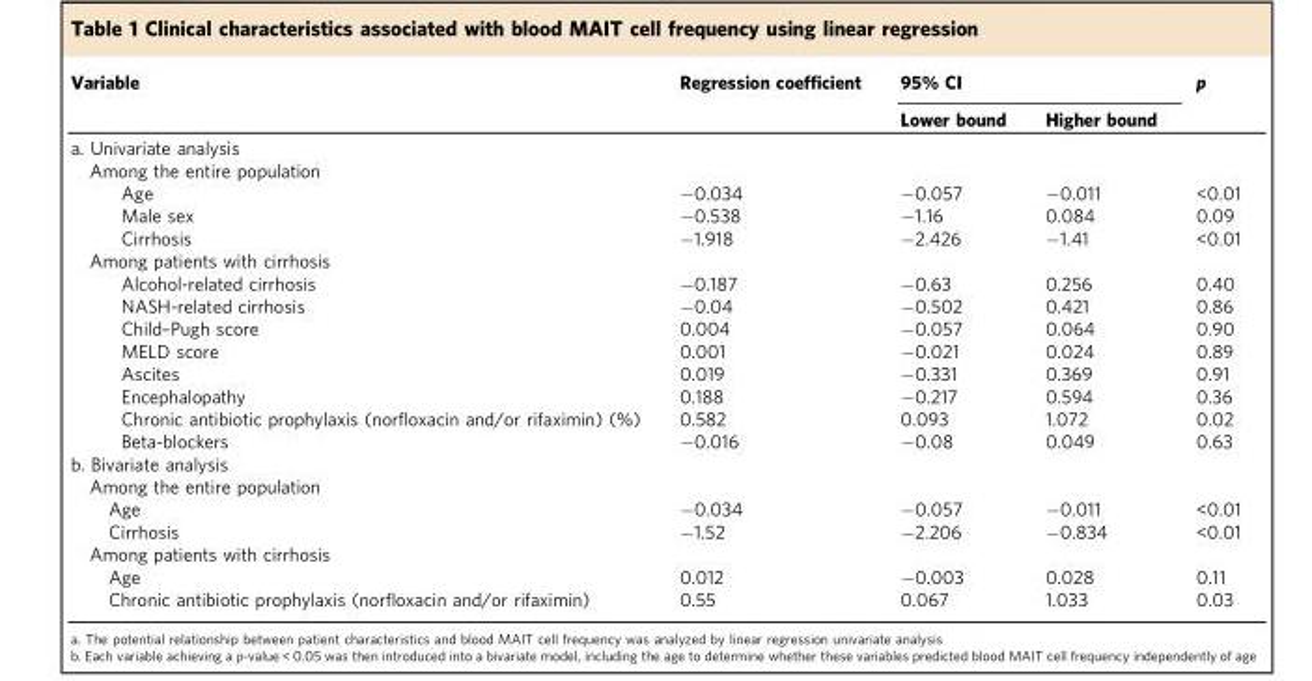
<table><thead><tr><td rowspan="2">Variable</td><td rowspan="2">Regression coefficient</td><td colspan="2">95% CI</td><td rowspan="2">p</td></tr><tr><td>Lower bound</td><td>Higher bound</td></tr></thead><tbody><tr><td colspan="5">a. Univariate analysis</td></tr><tr><td colspan="5">Among the entire population</td></tr><tr><td>Age</td><td>−0.034</td><td>−0.057</td><td>−0.011</td><td>&lt;0.01</td></tr><tr><td>Male sex</td><td>−0.538</td><td>−1.16</td><td>0.084</td><td>0.09</td></tr><tr><td>Cirrhosis</td><td>−1.918</td><td>−2.426</td><td>−1.41</td><td>&lt;0.01</td></tr><tr><td colspan="5">Among patients with cirrhosis</td></tr><tr><td>Alcohol-related cirrhosis</td><td>−0.187</td><td>−0.63</td><td>0.256</td><td>0.40</td></tr><tr><td>NASH-related cirrhosis</td><td>−0.04</td><td>−0.502</td><td>0.421</td><td>0.86</td></tr><tr><td>Child–Pugh score</td><td>0.004</td><td>−0.057</td><td>0.064</td><td>0.90</td></tr><tr><td>MELD score</td><td>0.001</td><td>−0.021</td><td>0.024</td><td>0.89</td></tr><tr><td>Ascites</td><td>0.019</td><td>−0.331</td><td>0.369</td><td>0.91</td></tr><tr><td>Encephalopathy</td><td>0.188</td><td>−0.217</td><td>0.594</td><td>0.36</td></tr><tr><td>Chronic antibiotic prophylaxis (norfloxacin and/or rifaximin) (%)</td><td>0.582</td><td>0.093</td><td>1.072</td><td>0.02</td></tr><tr><td>Beta-blockers</td><td>−0.016</td><td>−0.08</td><td>0.049</td><td>0.63</td></tr><tr><td colspan="5">b. Bivariate analysis</td></tr><tr><td colspan="5">Among the entire population</td></tr><tr><td>Age</td><td>−0.034</td><td>−0.057</td><td>−0.011</td><td>&lt;0.01</td></tr><tr><td>Cirrhosis</td><td>−1.52</td><td>−2.206</td><td>−0.834</td><td>&lt;0.01</td></tr><tr><td colspan="5">Among patients with cirrhosis</td></tr><tr><td>Age</td><td>0.012</td><td>−0.003</td><td>0.028</td><td>0.11</td></tr><tr><td>Chronic antibiotic prophylaxis (norfloxacin and/or rifaximin)</td><td>0.55</td><td>0.067</td><td>1.033</td><td>0.03</td></tr></tbody></table>